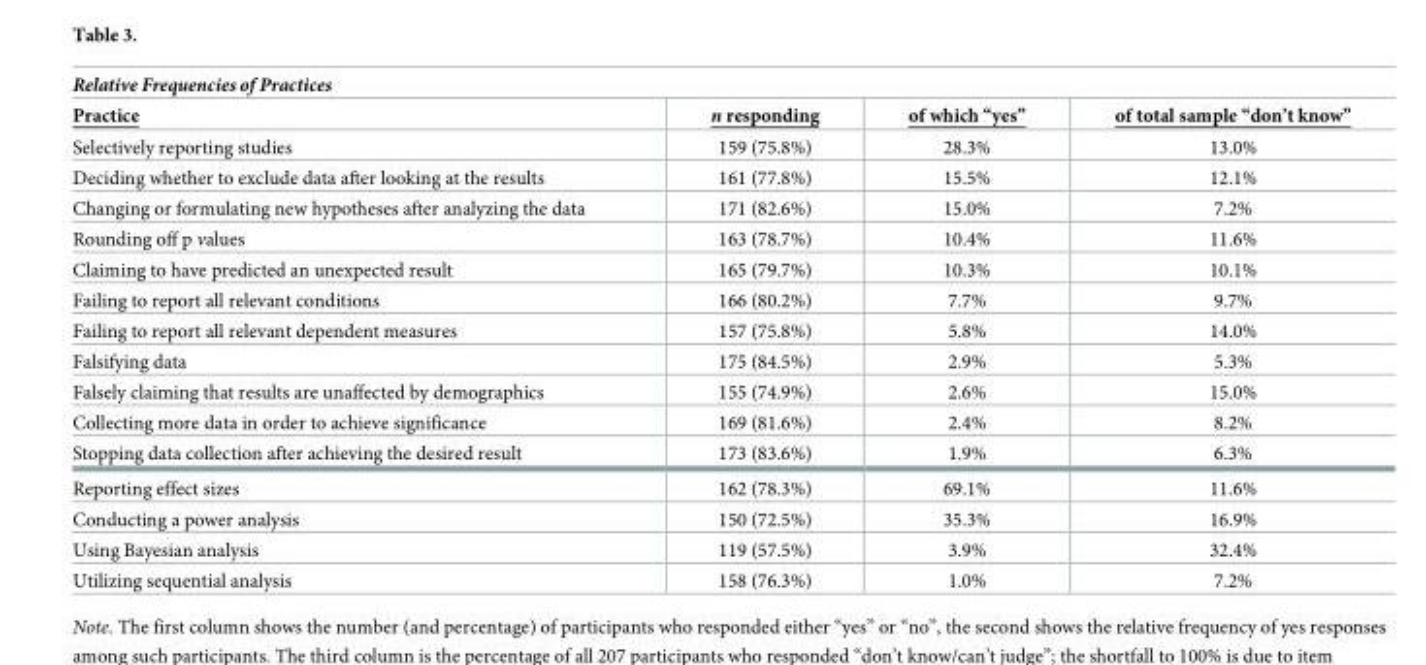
<table><thead><tr><td colspan="4">Relative Frequencies of Practices</td></tr><tr><td>Practice</td><td>n responding</td><td>of which “yes”</td><td>of total sample “don’t know”</td></tr></thead><tbody><tr><td>Selectively reporting studies</td><td>159 (75.8%)</td><td>28.3%</td><td>13.0%</td></tr><tr><td>Deciding whether to exclude data after looking at the results</td><td>161 (77.8%)</td><td>15.5%</td><td>12.1%</td></tr><tr><td>Changing or formulating new hypotheses after analyzing the data</td><td>171 (82.6%)</td><td>15.0%</td><td>7.2%</td></tr><tr><td>Rounding off p values</td><td>163 (78.7%)</td><td>10.4%</td><td>11.6%</td></tr><tr><td>Claiming to have predicted an unexpected result</td><td>165 (79.7%)</td><td>10.3%</td><td>10.1%</td></tr><tr><td>Failing to report all relevant conditions</td><td>166 (80.2%)</td><td>7.7%</td><td>9.7%</td></tr><tr><td>Failing to report all relevant dependent measures</td><td>157 (75.8%)</td><td>5.8%</td><td>14.0%</td></tr><tr><td>Falsifying data</td><td>175 (84.5%)</td><td>2.9%</td><td>5.3%</td></tr><tr><td>Falsely claiming that results are unaffected by demographics</td><td>155 (74.9%)</td><td>2.6%</td><td>15.0%</td></tr><tr><td>Collecting more data in order to achieve significance</td><td>169 (81.6%)</td><td>2.4%</td><td>8.2%</td></tr><tr><td>Stopping data collection after achieving the desired result</td><td>173 (83.6%)</td><td>1.9%</td><td>6.3%</td></tr><tr><td>Reporting effect sizes</td><td>162 (78.3%)</td><td>69.1%</td><td>11.6%</td></tr><tr><td>Conducting a power analysis</td><td>150 (72.5%)</td><td>35.3%</td><td>16.9%</td></tr><tr><td>Using Bayesian analysis</td><td>119 (57.5%)</td><td>3.9%</td><td>32.4%</td></tr><tr><td>Utilizing sequential analysis</td><td>158 (76.3%)</td><td>1.0%</td><td>7.2%</td></tr></tbody></table>